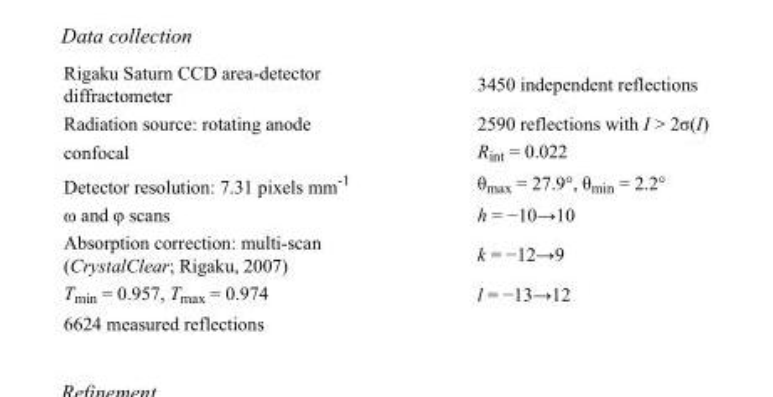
<table><tbody><tr><td>Rigaku Saturn CCD area-detector diffractometer</td><td>3450 independent reflections</td></tr><tr><td>Radiation source: rotating anode</td><td>2590 reflections with I &gt; 2σ(I)</td></tr><tr><td>confocal</td><td>R<sub>int</sub> = 0.022</td></tr><tr><td>Detector resolution: 7.31 pixels mm<sup>-1</sup></td><td>θ<sub>max</sub> = 27.9°, θ<sub>min</sub> = 2.2°</td></tr><tr><td>ω and φ scans</td><td>h = −10→10</td></tr><tr><td>Absorption correction: multi-scan (CrystalClear; Rigaku, 2007)</td><td>k = −12→9</td></tr><tr><td>T<sub>min</sub> = 0.957, T<sub>max</sub> = 0.974</td><td>l = −13→12</td></tr><tr><td>6624 measured reflections</td><td></td></tr></tbody></table>